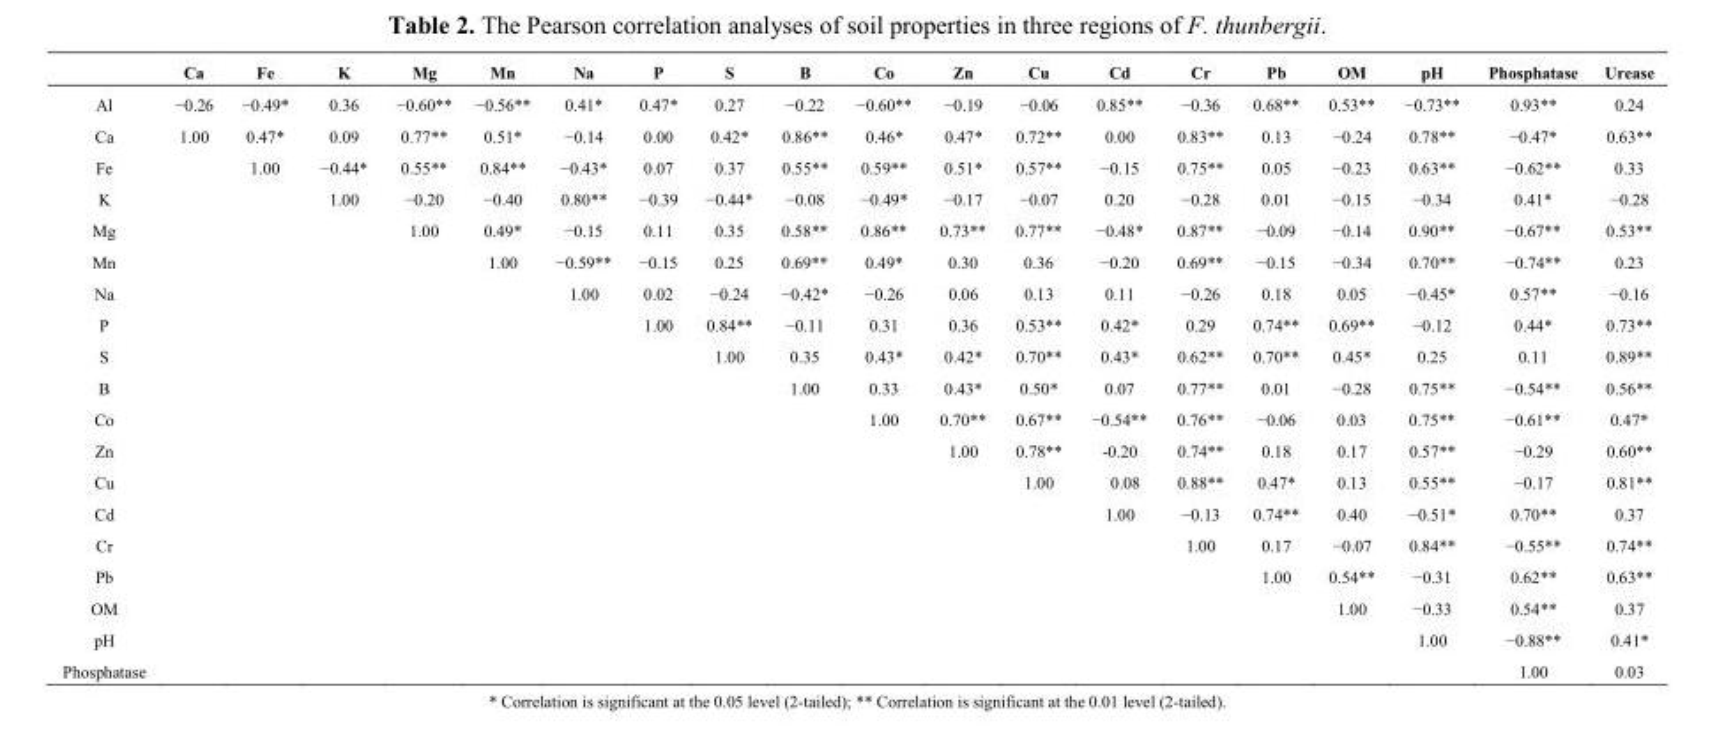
<table><thead><tr><td></td><td>Ca</td><td>Fe</td><td>K</td><td>Mg</td><td>Mn</td><td>Na</td><td>P</td><td>S</td><td>B</td><td>Co</td><td>Zn</td><td>Cu</td><td>Cd</td><td>Cr</td><td>Pb</td><td>OM</td><td>pH</td><td>Phosphatase</td><td>Urease</td></tr></thead><tbody><tr><td>Al</td><td>−0.26</td><td>−0.49*</td><td>0.36</td><td>−0.60**</td><td>−0.56**</td><td>0.41*</td><td>0.47*</td><td>0.27</td><td>−0.22</td><td>−0.60**</td><td>−0.19</td><td>−0.06</td><td>0.85**</td><td>−0.36</td><td>0.68**</td><td>0.53**</td><td>−0.73**</td><td>0.93**</td><td>0.24</td></tr><tr><td>Ca</td><td>1.00</td><td>0.47*</td><td>0.09</td><td>0.77**</td><td>0.51*</td><td>−0.14</td><td>0.00</td><td>0.42*</td><td>0.86**</td><td>0.46*</td><td>0.47*</td><td>0.72**</td><td>0.00</td><td>0.83**</td><td>0.13</td><td>−0.24</td><td>0.78**</td><td>−0.47*</td><td>0.63**</td></tr><tr><td>Fe</td><td></td><td>1.00</td><td>−0.44*</td><td>0.55**</td><td>0.84**</td><td>−0.43*</td><td>0.07</td><td>0.37</td><td>0.55**</td><td>0.59**</td><td>0.51*</td><td>0.57**</td><td>−0.15</td><td>0.75**</td><td>0.05</td><td>−0.23</td><td>0.63**</td><td>−0.62**</td><td>0.33</td></tr><tr><td>K</td><td></td><td></td><td>1.00</td><td>−0.20</td><td>−0.40</td><td>0.80**</td><td>−0.39</td><td>−0.44*</td><td>−0.08</td><td>−0.49*</td><td>−0.17</td><td>−0.07</td><td>0.20</td><td>−0.28</td><td>0.01</td><td>−0.15</td><td>−0.34</td><td>0.41*</td><td>−0.28</td></tr><tr><td>Mg</td><td></td><td></td><td></td><td>1.00</td><td>0.49*</td><td>−0.15</td><td>0.11</td><td>0.35</td><td>0.58**</td><td>0.86**</td><td>0.73**</td><td>0.77**</td><td>−0.48*</td><td>0.87**</td><td>−0.09</td><td>−0.14</td><td>0.90**</td><td>−0.67**</td><td>0.53**</td></tr><tr><td>Mn</td><td></td><td></td><td></td><td></td><td>1.00</td><td>−0.59**</td><td>−0.15</td><td>0.25</td><td>0.69**</td><td>0.49*</td><td>0.30</td><td>0.36</td><td>−0.20</td><td>0.69**</td><td>−0.15</td><td>−0.34</td><td>0.70**</td><td>−0.74**</td><td>0.23</td></tr><tr><td>Na</td><td></td><td></td><td></td><td></td><td></td><td>1.00</td><td>0.02</td><td>−0.24</td><td>−0.42*</td><td>−0.26</td><td>0.06</td><td>0.13</td><td>0.11</td><td>−0.26</td><td>0.18</td><td>0.05</td><td>−0.45*</td><td>0.57**</td><td>−0.16</td></tr><tr><td>P</td><td></td><td></td><td></td><td></td><td></td><td></td><td>1.00</td><td>0.84**</td><td>−0.11</td><td>0.31</td><td>0.36</td><td>0.53**</td><td>0.42*</td><td>0.29</td><td>0.74**</td><td>0.69**</td><td>−0.12</td><td>0.44*</td><td>0.73**</td></tr><tr><td>S</td><td></td><td></td><td></td><td></td><td></td><td></td><td></td><td>1.00</td><td>0.35</td><td>0.43*</td><td>0.42*</td><td>0.70**</td><td>0.43*</td><td>0.62**</td><td>0.70**</td><td>0.45*</td><td>0.25</td><td>0.11</td><td>0.89**</td></tr><tr><td>B</td><td></td><td></td><td></td><td></td><td></td><td></td><td></td><td></td><td>1.00</td><td>0.33</td><td>0.43*</td><td>0.50*</td><td>0.07</td><td>0.77**</td><td>0.01</td><td>−0.28</td><td>0.75**</td><td>−0.54**</td><td>0.56**</td></tr><tr><td>Co</td><td></td><td></td><td></td><td></td><td></td><td></td><td></td><td></td><td></td><td>1.00</td><td>0.70**</td><td>0.67**</td><td>−0.54**</td><td>0.76**</td><td>−0.06</td><td>0.03</td><td>0.75**</td><td>−0.61**</td><td>0.47*</td></tr><tr><td>Zn</td><td></td><td></td><td></td><td></td><td></td><td></td><td></td><td></td><td></td><td></td><td>1.00</td><td>0.78**</td><td>-0.20</td><td>0.74**</td><td>0.18</td><td>0.17</td><td>0.57**</td><td>−0.29</td><td>0.60**</td></tr><tr><td>Cu</td><td></td><td></td><td></td><td></td><td></td><td></td><td></td><td></td><td></td><td></td><td></td><td>1.00</td><td>0.08</td><td>0.88**</td><td>0.47*</td><td>0.13</td><td>0.55**</td><td>−0.17</td><td>0.81**</td></tr><tr><td>Cd</td><td></td><td></td><td></td><td></td><td></td><td></td><td></td><td></td><td></td><td></td><td></td><td></td><td>1.00</td><td>−0.13</td><td>0.74**</td><td>0.40</td><td>−0.51*</td><td>0.70**</td><td>0.37</td></tr><tr><td>Cr</td><td></td><td></td><td></td><td></td><td></td><td></td><td></td><td></td><td></td><td></td><td></td><td></td><td></td><td>1.00</td><td>0.17</td><td>−0.07</td><td>0.84**</td><td>−0.55**</td><td>0.74**</td></tr><tr><td>Pb</td><td></td><td></td><td></td><td></td><td></td><td></td><td></td><td></td><td></td><td></td><td></td><td></td><td></td><td></td><td>1.00</td><td>0.54**</td><td>−0.31</td><td>0.62**</td><td>0.63**</td></tr><tr><td>OM</td><td></td><td></td><td></td><td></td><td></td><td></td><td></td><td></td><td></td><td></td><td></td><td></td><td></td><td></td><td></td><td>1.00</td><td>−0.33</td><td>0.54**</td><td>0.37</td></tr><tr><td>pH</td><td></td><td></td><td></td><td></td><td></td><td></td><td></td><td></td><td></td><td></td><td></td><td></td><td></td><td></td><td></td><td></td><td>1.00</td><td>−0.88**</td><td>0.41*</td></tr><tr><td>Phosphatase</td><td></td><td></td><td></td><td></td><td></td><td></td><td></td><td></td><td></td><td></td><td></td><td></td><td></td><td></td><td></td><td></td><td></td><td>1.00</td><td>0.03</td></tr></tbody></table>